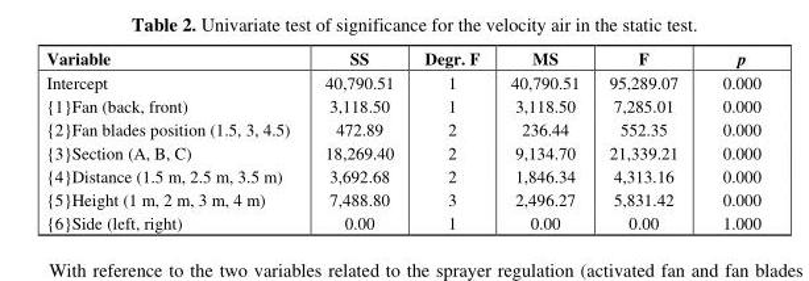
<table><thead><tr><td>Variable</td><td>SS</td><td>Degr. F</td><td>MS</td><td>F</td><td>p</td></tr></thead><tbody><tr><td>Intercept</td><td>40,790.51</td><td>1</td><td>40,790.51</td><td>95,289.07</td><td>0.000</td></tr><tr><td>{1}Fan (back, front)</td><td>3,118.50</td><td>1</td><td>3,118.50</td><td>7,285.01</td><td>0.000</td></tr><tr><td>{2}Fan blades position (1.5, 3, 4.5)</td><td>472.89</td><td>2</td><td>236.44</td><td>552.35</td><td>0.000</td></tr><tr><td>{3}Section (A, B, C)</td><td>18,269.40</td><td>2</td><td>9,134.70</td><td>21,339.21</td><td>0.000</td></tr><tr><td>{4}Distance (1.5 m, 2.5 m, 3.5 m)</td><td>3,692.68</td><td>2</td><td>1,846.34</td><td>4,313.16</td><td>0.000</td></tr><tr><td>{5}Height (1 m, 2 m, 3 m, 4 m)</td><td>7,488.80</td><td>3</td><td>2,496.27</td><td>5,831.42</td><td>0.000</td></tr><tr><td>{6}Side (left, right)</td><td>0.00</td><td>1</td><td>0.00</td><td>0.00</td><td>1.000</td></tr></tbody></table>